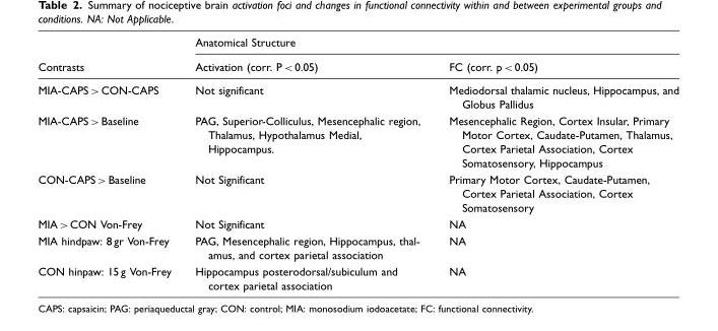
<table><thead><tr><td rowspan="2">Contrasts</td><td colspan="2">Anatomical Structure</td></tr><tr><td>Activation (corr. P &lt; 0.05)</td><td>FC (corr. p &lt; 0.05)</td></tr></thead><tbody><tr><td>MIA-CAPS &gt; CON-CAPS</td><td>Not significant</td><td>Mediodorsal thalamic nucleus, Hippocampus, and Globus Pallidus</td></tr><tr><td>MIA-CAPS &gt; Baseline</td><td>PAG, Superior-Colliculus, Mesencephalic region, Thalamus, Hypothalamus Medial, Hippocampus.</td><td>Mesencephalic Region, Cortex Insular, Primary Motor Cortex, Caudate-Putamen, Thalamus, Cortex Parietal Association, Cortex Somatosensory, Hippocampus</td></tr><tr><td>CON-CAPS &gt; Baseline</td><td>Not Significant</td><td>Primary Motor Cortex, Caudate-Putamen, Cortex Parietal Association, Cortex Somatosensory</td></tr><tr><td>MIA &gt;CON Von-Frey</td><td>Not Significant</td><td>NA</td></tr><tr><td>MIA hindpaw: 8 gr Von-Frey</td><td>PAG, Mesencephalic region, Hippocampus, thal- amus, and cortex parietal association</td><td>NA</td></tr><tr><td>CON hinpaw: 15 g Von-Frey</td><td>Hippocampus posterodorsal/subiculum and cortex parietal association</td><td>NA</td></tr></tbody></table>